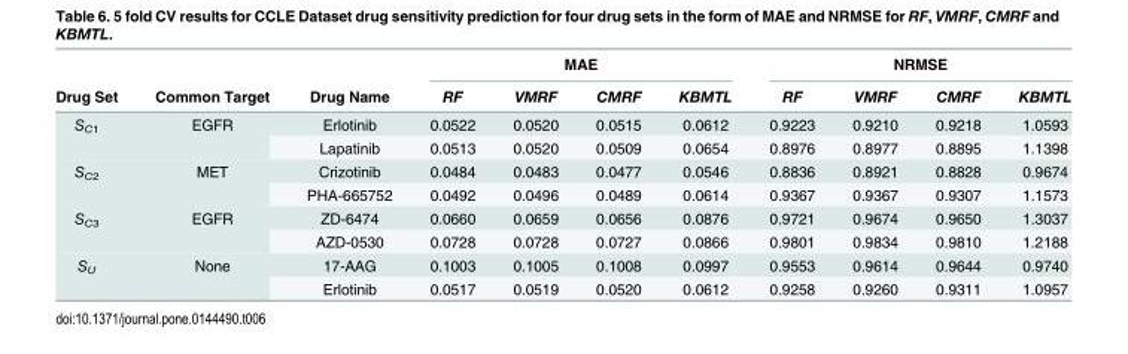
<table><thead><tr><td rowspan="2">Drug Set</td><td rowspan="2">Common Target</td><td rowspan="2">Drug Name</td><td colspan="4">MAE</td><td colspan="4">NRMSE</td></tr><tr><td>RF</td><td>VMRF</td><td>CMRF</td><td>KBMTL</td><td>RF</td><td>VMRF</td><td>CMRF</td><td>KBMTL</td></tr></thead><tbody><tr><td rowspan="2">S<sub>C1</sub></td><td rowspan="2">EGFR</td><td>Erlotinib</td><td>0.0522</td><td>0.0520</td><td>0.0515</td><td>0.0612</td><td>0.9223</td><td>0.9210</td><td>0.9218</td><td>1.0593</td></tr><tr><td>Lapatinib</td><td>0.0513</td><td>0.0520</td><td>0.0509</td><td>0.0654</td><td>0.8976</td><td>0.8977</td><td>0.8895</td><td>1.1398</td></tr><tr><td rowspan="2">S<sub>C2</sub></td><td rowspan="2">MET</td><td>Crizotinib</td><td>0.0484</td><td>0.0483</td><td>0.0477</td><td>0.0546</td><td>0.8836</td><td>0.8921</td><td>0.8828</td><td>0.9674</td></tr><tr><td>PHA-665752</td><td>0.0492</td><td>0.0496</td><td>0.0489</td><td>0.0614</td><td>0.9367</td><td>0.9367</td><td>0.9307</td><td>1.1573</td></tr><tr><td rowspan="2">S<sub>C3</sub></td><td rowspan="2">EGFR</td><td>ZD-6474</td><td>0.0660</td><td>0.0659</td><td>0.0656</td><td>0.0876</td><td>0.9721</td><td>0.9674</td><td>0.9650</td><td>1.3037</td></tr><tr><td>AZD-0530</td><td>0.0728</td><td>0.0728</td><td>0.0727</td><td>0.0866</td><td>0.9801</td><td>0.9834</td><td>0.9810</td><td>1.2188</td></tr><tr><td rowspan="2">S<sub>U</sub></td><td rowspan="2">None</td><td>17-AAG</td><td>0.1003</td><td>0.1005</td><td>0.1008</td><td>0.0997</td><td>0.9553</td><td>0.9614</td><td>0.9644</td><td>0.9740</td></tr><tr><td>Erlotinib</td><td>0.0517</td><td>0.0519</td><td>0.0520</td><td>0.0612</td><td>0.9258</td><td>0.9260</td><td>0.9311</td><td>1.0957</td></tr></tbody></table>